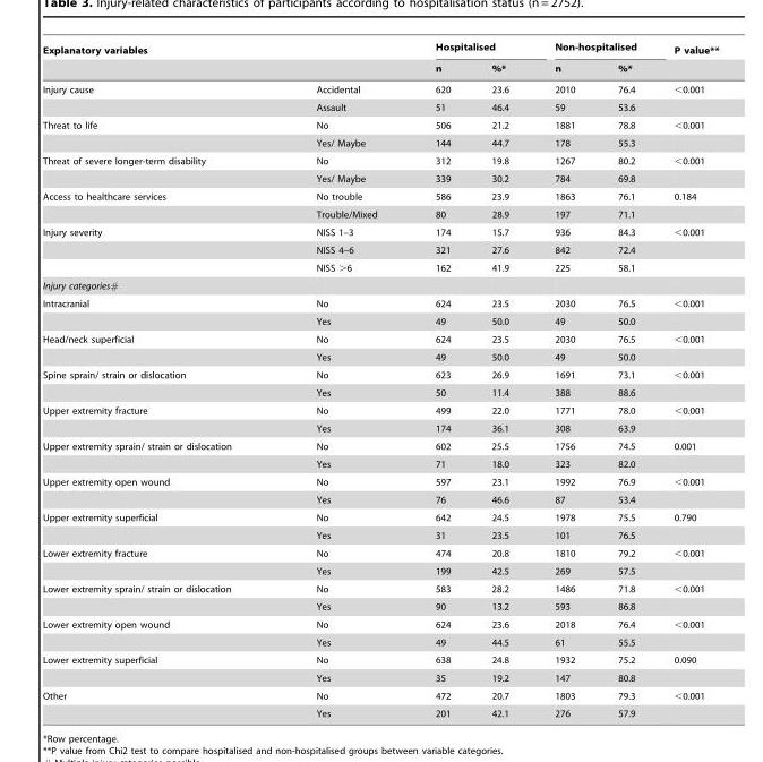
<table><thead><tr><td colspan="2">Explanatory variables</td><td colspan="2">Hospitalised</td><td colspan="2">Non-hospitalised</td><td rowspan="2">P value**</td></tr><tr><td></td><td></td><td>n</td><td>%*</td><td>n</td><td>%*</td></tr></thead><tbody><tr><td rowspan="2">Injury cause</td><td>Accidental</td><td>620</td><td>23.6</td><td>2010</td><td>76.4</td><td>&lt;0.001</td></tr><tr><td>Assault</td><td>51</td><td>46.4</td><td>59</td><td>53.6</td><td></td></tr><tr><td rowspan="2">Threat to life</td><td>No</td><td>506</td><td>21.2</td><td>1881</td><td>78.8</td><td>&lt;0.001</td></tr><tr><td>Yes/ Maybe</td><td>144</td><td>44.7</td><td>178</td><td>55.3</td><td></td></tr><tr><td rowspan="2">Threat of severe longer-term disability</td><td>No</td><td>312</td><td>19.8</td><td>1267</td><td>80.2</td><td>&lt;0.001</td></tr><tr><td>Yes/ Maybe</td><td>339</td><td>30.2</td><td>784</td><td>69.8</td><td></td></tr><tr><td rowspan="2">Access to healthcare services</td><td>No trouble</td><td>586</td><td>23.9</td><td>1863</td><td>76.1</td><td>0.184</td></tr><tr><td>Trouble/Mixed</td><td>80</td><td>28.9</td><td>197</td><td>71.1</td><td></td></tr><tr><td rowspan="3">Injury severity</td><td>NISS 1–3</td><td>174</td><td>15.7</td><td>936</td><td>84.3</td><td>&lt;0.001</td></tr><tr><td>NISS 4–6</td><td>321</td><td>27.6</td><td>842</td><td>72.4</td><td></td></tr><tr><td>NISS &gt;6</td><td>162</td><td>41.9</td><td>225</td><td>58.1</td><td></td></tr><tr><td colspan="7">Injury categories#</td></tr><tr><td rowspan="2">Intracranial</td><td>No</td><td>624</td><td>23.5</td><td>2030</td><td>76.5</td><td>&lt;0.001</td></tr><tr><td>Yes</td><td>49</td><td>50.0</td><td>49</td><td>50.0</td><td></td></tr><tr><td rowspan="2">Head/neck superficial</td><td>No</td><td>624</td><td>23.5</td><td>2030</td><td>76.5</td><td>&lt;0.001</td></tr><tr><td>Yes</td><td>49</td><td>50.0</td><td>49</td><td>50.0</td><td></td></tr><tr><td rowspan="2">Spine sprain/ strain or dislocation</td><td>No</td><td>623</td><td>26.9</td><td>1691</td><td>73.1</td><td>&lt;0.001</td></tr><tr><td>Yes</td><td>50</td><td>11.4</td><td>388</td><td>88.6</td><td></td></tr><tr><td rowspan="2">Upper extremity fracture</td><td>No</td><td>499</td><td>22.0</td><td>1771</td><td>78.0</td><td>&lt;0.001</td></tr><tr><td>Yes</td><td>174</td><td>36.1</td><td>308</td><td>63.9</td><td></td></tr><tr><td rowspan="2">Upper extremity sprain/ strain or dislocation</td><td>No</td><td>602</td><td>25.5</td><td>1756</td><td>74.5</td><td>0.001</td></tr><tr><td>Yes</td><td>71</td><td>18.0</td><td>323</td><td>82.0</td><td></td></tr><tr><td rowspan="2">Upper extremity open wound</td><td>No</td><td>597</td><td>23.1</td><td>1992</td><td>76.9</td><td>&lt;0.001</td></tr><tr><td>Yes</td><td>76</td><td>46.6</td><td>87</td><td>53.4</td><td></td></tr><tr><td rowspan="2">Upper extremity superficial</td><td>No</td><td>642</td><td>24.5</td><td>1978</td><td>75.5</td><td>0.790</td></tr><tr><td>Yes</td><td>31</td><td>23.5</td><td>101</td><td>76.5</td><td></td></tr><tr><td rowspan="2">Lower extremity fracture</td><td>No</td><td>474</td><td>20.8</td><td>1810</td><td>79.2</td><td>&lt;0.001</td></tr><tr><td>Yes</td><td>199</td><td>42.5</td><td>269</td><td>57.5</td><td></td></tr><tr><td rowspan="2">Lower extremity sprain/ strain or dislocation</td><td>No</td><td>583</td><td>28.2</td><td>1486</td><td>71.8</td><td>&lt;0.001</td></tr><tr><td>Yes</td><td>90</td><td>13.2</td><td>593</td><td>86.8</td><td></td></tr><tr><td rowspan="2">Lower extremity open wound</td><td>No</td><td>624</td><td>23.6</td><td>2018</td><td>76.4</td><td>&lt;0.001</td></tr><tr><td>Yes</td><td>49</td><td>44.5</td><td>61</td><td>55.5</td><td></td></tr><tr><td rowspan="2">Lower extremity superficial</td><td>No</td><td>638</td><td>24.8</td><td>1932</td><td>75.2</td><td>0.090</td></tr><tr><td>Yes</td><td>35</td><td>19.2</td><td>147</td><td>80.8</td><td></td></tr><tr><td rowspan="2">Other</td><td>No</td><td>472</td><td>20.7</td><td>1803</td><td>79.3</td><td>&lt;0.001</td></tr><tr><td>Yes</td><td>201</td><td>42.1</td><td>276</td><td>57.9</td><td></td></tr></tbody></table>